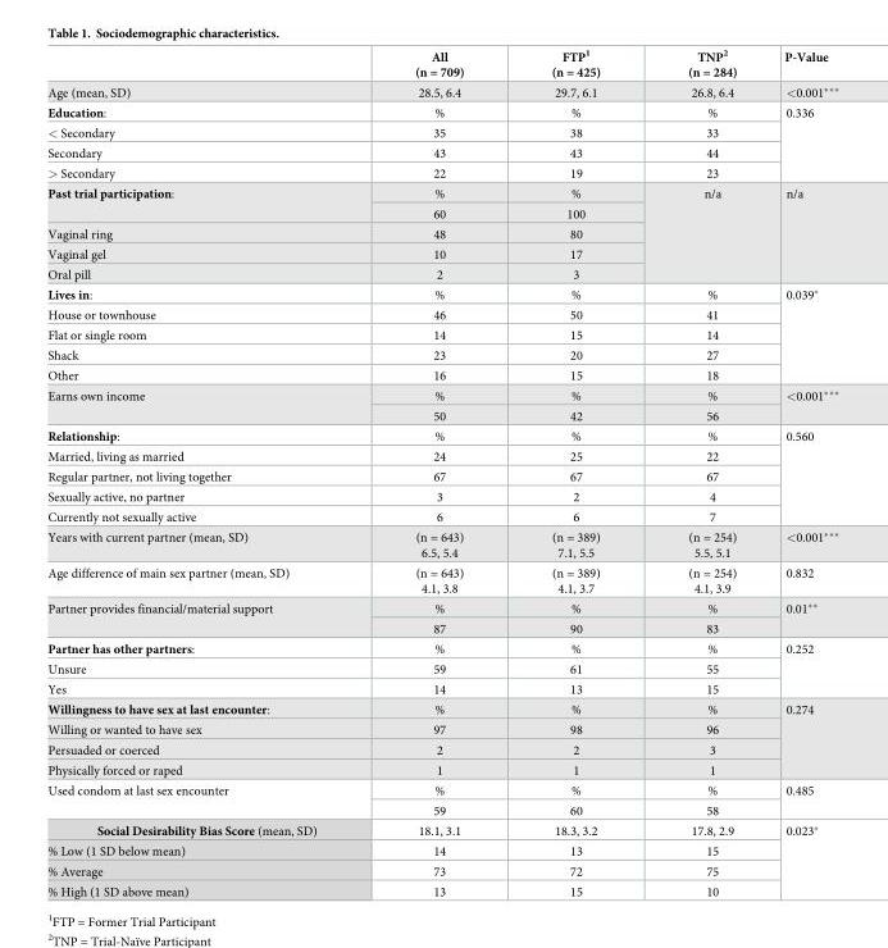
<table><thead><tr><td></td><td>All (n = 709)</td><td>FTP<sup>1</sup> (n = 425)</td><td>TNP<sup>2</sup> (n = 284)</td><td>P-Value</td></tr></thead><tbody><tr><td>Age (mean, SD)</td><td>28.5, 6.4</td><td>29.7, 6.1</td><td>26.8, 6.4</td><td>&lt;0.001***</td></tr><tr><td>Education:</td><td>%</td><td>%</td><td>%</td><td rowspan="4">0.336</td></tr><tr><td>&lt; Secondary</td><td>35</td><td>38</td><td>33</td></tr><tr><td>Secondary</td><td>43</td><td>43</td><td>44</td></tr><tr><td>&gt; Secondary</td><td>22</td><td>19</td><td>23</td></tr><tr><td rowspan="2">Past trial participation:</td><td>%</td><td>%</td><td rowspan="5">n/a</td><td rowspan="5">n/a</td></tr><tr><td>60</td><td>100</td></tr><tr><td>Vaginal ring</td><td>48</td><td>80</td></tr><tr><td>Vaginal gel</td><td>10</td><td>17</td></tr><tr><td>Oral pill</td><td>2</td><td>3</td></tr><tr><td>Lives in:</td><td>%</td><td>%</td><td>%</td><td rowspan="5">0.039*</td></tr><tr><td>House or townhouse</td><td>46</td><td>50</td><td>41</td></tr><tr><td>Flat or single room</td><td>14</td><td>15</td><td>14</td></tr><tr><td>Shack</td><td>23</td><td>20</td><td>27</td></tr><tr><td>Other</td><td>16</td><td>15</td><td>18</td></tr><tr><td rowspan="2">Earns own income</td><td>%</td><td>%</td><td>%</td><td rowspan="2">&lt;0.001***</td></tr><tr><td>50</td><td>42</td><td>56</td></tr><tr><td>Relationship:</td><td>%</td><td>%</td><td>%</td><td rowspan="5">0.560</td></tr><tr><td>Married, living as married</td><td>24</td><td>25</td><td>22</td></tr><tr><td>Regular partner, not living together</td><td>67</td><td>67</td><td>67</td></tr><tr><td>Sexually active, no partner</td><td>3</td><td>2</td><td>4</td></tr><tr><td>Currently not sexually active</td><td>6</td><td>6</td><td>7</td></tr><tr><td>Years with current partner (mean, SD)</td><td>(n = 643) 6.5, 5.4</td><td>(n = 389) 7.1, 5.5</td><td>(n = 254) 5.5, 5.1</td><td>&lt;0.001***</td></tr><tr><td>Age difference of main sex partner (mean, SD)</td><td>(n = 643) 4.1, 3.8</td><td>(n = 389) 4.1, 3.7</td><td>(n = 254) 4.1, 3.9</td><td>0.832</td></tr><tr><td rowspan="2">Partner provides financial/material support</td><td>%</td><td>%</td><td>%</td><td rowspan="2">0.01**</td></tr><tr><td>87</td><td>90</td><td>83</td></tr><tr><td>Partner has other partners:</td><td>%</td><td>%</td><td>%</td><td rowspan="3">0.252</td></tr><tr><td>Unsure</td><td>59</td><td>61</td><td>55</td></tr><tr><td>Yes</td><td>14</td><td>13</td><td>15</td></tr><tr><td>Willingness to have sex at last encounter:</td><td>%</td><td>%</td><td>%</td><td rowspan="4">0.274</td></tr><tr><td>Willing or wanted to have sex</td><td>97</td><td>98</td><td>96</td></tr><tr><td>Persuaded or coerced</td><td>2</td><td>2</td><td>3</td></tr><tr><td>Physically forced or raped</td><td>1</td><td>1</td><td>1</td></tr><tr><td rowspan="2">Used condom at last sex encounter</td><td>%</td><td>%</td><td>%</td><td rowspan="2">0.485</td></tr><tr><td>59</td><td>60</td><td>58</td></tr><tr><td>Social Desirability Bias Score (mean, SD)</td><td>18.1, 3.1</td><td>18.3, 3.2</td><td>17.8, 2.9</td><td rowspan="4">0.023*</td></tr><tr><td>% Low (1 SD below mean)</td><td>14</td><td>13</td><td>15</td></tr><tr><td>% Average</td><td>73</td><td>72</td><td>75</td></tr><tr><td>% High (1 SD above mean)</td><td>13</td><td>15</td><td>10</td></tr></tbody></table>